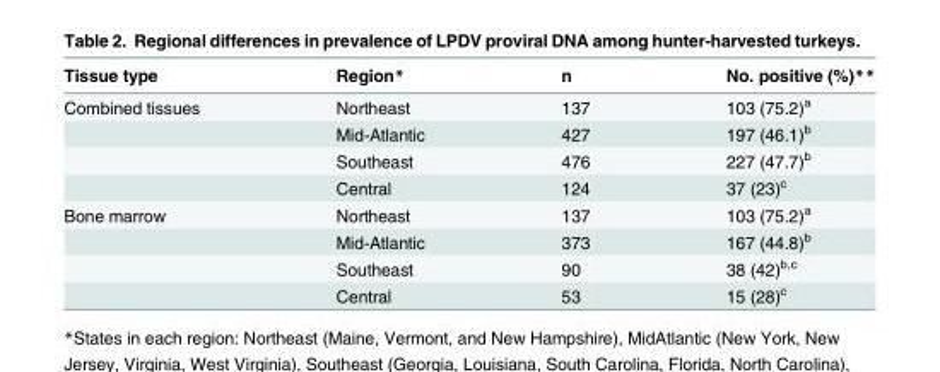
<table><thead><tr><td>Tissue type</td><td>Region*</td><td>n</td><td>No. positive (%)**</td></tr></thead><tbody><tr><td rowspan="4">Combined tissues</td><td>Northeast</td><td>137</td><td>103 (75.2)<sup>a</sup></td></tr><tr><td>Mid-Atlantic</td><td>427</td><td>197 (46.1)<sup>b</sup></td></tr><tr><td>Southeast</td><td>476</td><td>227 (47.7)<sup>b</sup></td></tr><tr><td>Central</td><td>124</td><td>37 (23)<sup>c</sup></td></tr><tr><td rowspan="4">Bone marrow</td><td>Northeast</td><td>137</td><td>103 (75.2)<sup>a</sup></td></tr><tr><td>Mid-Atlantic</td><td>373</td><td>167 (44.8)<sup>b</sup></td></tr><tr><td>Southeast</td><td>90</td><td>38 (42)<sup>b,c</sup></td></tr><tr><td>Central</td><td>53</td><td>15 (28)<sup>c</sup></td></tr></tbody></table>